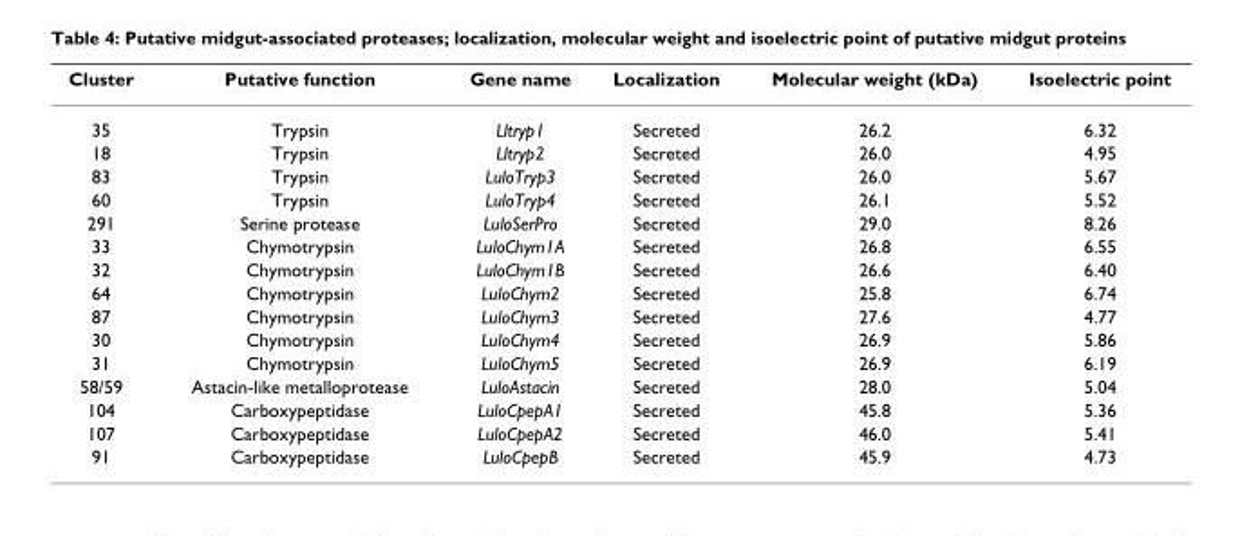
<table><thead><tr><td>Cluster</td><td>Putative function</td><td>Gene name</td><td>Localization</td><td>Molecular weight (kDa)</td><td>Isoelectric point</td></tr></thead><tbody><tr><td>35</td><td>Trypsin</td><td>Lltryp1</td><td>Secreted</td><td>26.2</td><td>6.32</td></tr><tr><td>18</td><td>Trypsin</td><td>Lltryp2</td><td>Secreted</td><td>26.0</td><td>4.95</td></tr><tr><td>83</td><td>Trypsin</td><td>LuloTryp3</td><td>Secreted</td><td>26.0</td><td>5.67</td></tr><tr><td>60</td><td>Trypsin</td><td>LuloTryp4</td><td>Secreted</td><td>26.1</td><td>5.52</td></tr><tr><td>291</td><td>Serine protease</td><td>LuloSerPro</td><td>Secreted</td><td>29.0</td><td>8.26</td></tr><tr><td>33</td><td>Chymotrypsin</td><td>LuloChym1A</td><td>Secreted</td><td>26.8</td><td>6.55</td></tr><tr><td>32</td><td>Chymotrypsin</td><td>LuloChym1B</td><td>Secreted</td><td>26.6</td><td>6.40</td></tr><tr><td>64</td><td>Chymotrypsin</td><td>LuloChym2</td><td>Secreted</td><td>25.8</td><td>6.74</td></tr><tr><td>87</td><td>Chymotrypsin</td><td>LuloChym3</td><td>Secreted</td><td>27.6</td><td>4.77</td></tr><tr><td>30</td><td>Chymotrypsin</td><td>LuloChym4</td><td>Secreted</td><td>26.9</td><td>5.86</td></tr><tr><td>31</td><td>Chymotrypsin</td><td>LuloChym5</td><td>Secreted</td><td>26.9</td><td>6.19</td></tr><tr><td>58/59</td><td>Astacin-like metalloprotease</td><td>LuloAstacin</td><td>Secreted</td><td>28.0</td><td>5.04</td></tr><tr><td>104</td><td>Carboxypeptidase</td><td>LuloCpepA1</td><td>Secreted</td><td>45.8</td><td>5.36</td></tr><tr><td>107</td><td>Carboxypeptidase</td><td>LuloCpepA2</td><td>Secreted</td><td>46.0</td><td>5.41</td></tr><tr><td>91</td><td>Carboxypeptidase</td><td>LuloCpepB</td><td>Secreted</td><td>45.9</td><td>4.73</td></tr></tbody></table>